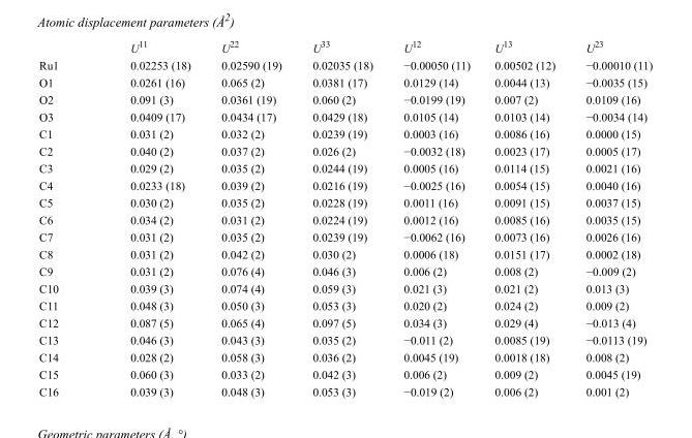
<table><thead><tr><td></td><td>U<sup>11</sup></td><td>U<sup>22</sup></td><td>U<sup>33</sup></td><td>U<sup>12</sup></td><td>U<sup>13</sup></td><td>U<sup>23</sup></td></tr></thead><tbody><tr><td>Ru1</td><td>0.02253 (18)</td><td>0.02590 (19)</td><td>0.02035 (18)</td><td>−0.00050 (11)</td><td>0.00502 (12)</td><td>−0.00010 (11)</td></tr><tr><td>O1</td><td>0.0261 (16)</td><td>0.065 (2)</td><td>0.0381 (17)</td><td>0.0129 (14)</td><td>0.0044 (13)</td><td>−0.0035 (15)</td></tr><tr><td>O2</td><td>0.091 (3)</td><td>0.0361 (19)</td><td>0.060 (2)</td><td>−0.0199 (19)</td><td>0.007 (2)</td><td>0.0109 (16)</td></tr><tr><td>O3</td><td>0.0409 (17)</td><td>0.0434 (17)</td><td>0.0429 (18)</td><td>0.0105 (14)</td><td>0.0103 (14)</td><td>−0.0034 (14)</td></tr><tr><td>C1</td><td>0.031 (2)</td><td>0.032 (2)</td><td>0.0239 (19)</td><td>0.0003 (16)</td><td>0.0086 (16)</td><td>0.0000 (15)</td></tr><tr><td>C2</td><td>0.040 (2)</td><td>0.037 (2)</td><td>0.026 (2)</td><td>−0.0032 (18)</td><td>0.0023 (17)</td><td>0.0005 (17)</td></tr><tr><td>C3</td><td>0.029 (2)</td><td>0.035 (2)</td><td>0.0244 (19)</td><td>0.0005 (16)</td><td>0.0114 (15)</td><td>0.0021 (16)</td></tr><tr><td>C4</td><td>0.0233 (18)</td><td>0.039 (2)</td><td>0.0216 (19)</td><td>−0.0025 (16)</td><td>0.0054 (15)</td><td>0.0040 (16)</td></tr><tr><td>C5</td><td>0.030 (2)</td><td>0.035 (2)</td><td>0.0228 (19)</td><td>0.0011 (16)</td><td>0.0091 (15)</td><td>0.0037 (15)</td></tr><tr><td>C6</td><td>0.034 (2)</td><td>0.031 (2)</td><td>0.0224 (19)</td><td>0.0012 (16)</td><td>0.0085 (16)</td><td>0.0035 (15)</td></tr><tr><td>C7</td><td>0.031 (2)</td><td>0.035 (2)</td><td>0.0239 (19)</td><td>−0.0062 (16)</td><td>0.0073 (16)</td><td>0.0026 (16)</td></tr><tr><td>C8</td><td>0.031 (2)</td><td>0.042 (2)</td><td>0.030 (2)</td><td>0.0006 (18)</td><td>0.0151 (17)</td><td>0.0002 (18)</td></tr><tr><td>C9</td><td>0.031 (2)</td><td>0.076 (4)</td><td>0.046 (3)</td><td>0.006 (2)</td><td>0.008 (2)</td><td>−0.009 (2)</td></tr><tr><td>C10</td><td>0.039 (3)</td><td>0.074 (4)</td><td>0.059 (3)</td><td>0.021 (3)</td><td>0.021 (2)</td><td>0.013 (3)</td></tr><tr><td>C11</td><td>0.048 (3)</td><td>0.050 (3)</td><td>0.053 (3)</td><td>0.020 (2)</td><td>0.024 (2)</td><td>0.009 (2)</td></tr><tr><td>C12</td><td>0.087 (5)</td><td>0.065 (4)</td><td>0.097 (5)</td><td>0.034 (3)</td><td>0.029 (4)</td><td>−0.013 (4)</td></tr><tr><td>C13</td><td>0.046 (3)</td><td>0.043 (3)</td><td>0.035 (2)</td><td>−0.011 (2)</td><td>0.0085 (19)</td><td>−0.0113 (19)</td></tr><tr><td>C14</td><td>0.028 (2)</td><td>0.058 (3)</td><td>0.036 (2)</td><td>0.0045 (19)</td><td>0.0018 (18)</td><td>0.008 (2)</td></tr><tr><td>C15</td><td>0.060 (3)</td><td>0.033 (2)</td><td>0.042 (3)</td><td>0.006 (2)</td><td>0.009 (2)</td><td>0.0045 (19)</td></tr><tr><td>C16</td><td>0.039 (3)</td><td>0.048 (3)</td><td>0.053 (3)</td><td>−0.019 (2)</td><td>0.006 (2)</td><td>0.001 (2)</td></tr></tbody></table>